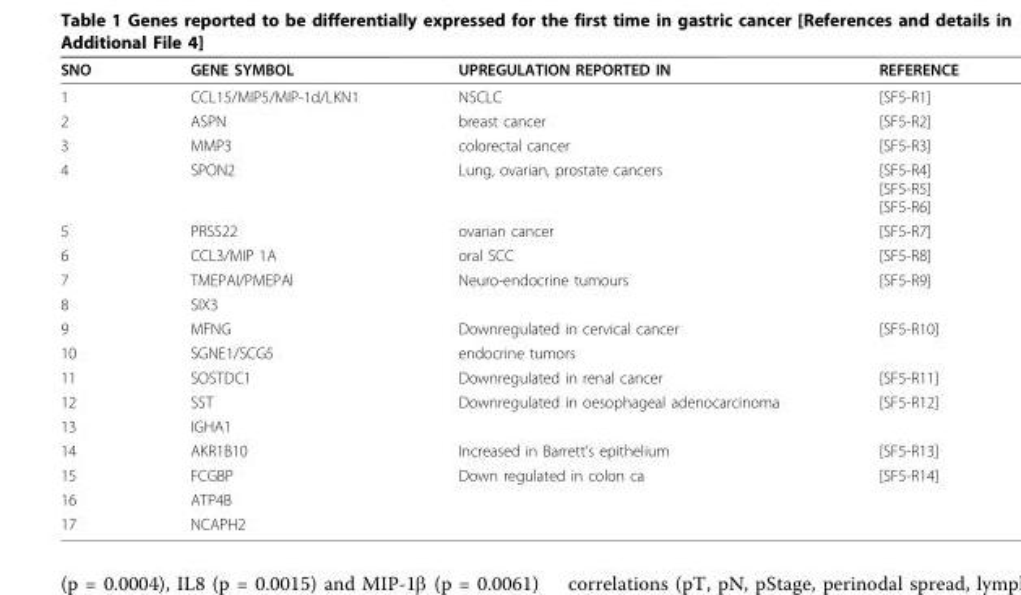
<table><thead><tr><td>SNO</td><td>GENE SYMBOL</td><td>UPREGULATION REPORTED IN</td><td>REFERENCE</td></tr></thead><tbody><tr><td>1</td><td>CCL15/MIP5/MIP-1d/LKN1</td><td>NSCLC</td><td>[SF5-R1]</td></tr><tr><td>2</td><td>ASPN</td><td>breast cancer</td><td>[SF5-R2]</td></tr><tr><td>3</td><td>MMP3</td><td>colorectal cancer</td><td>[SF5-R3]</td></tr><tr><td>4</td><td>SPON2</td><td>Lung, ovarian, prostate cancers</td><td>[SF5-R4] [SF5-R5] [SF5-R6]</td></tr><tr><td>5</td><td>PRSS22</td><td>ovarian cancer</td><td>[SF5-R7]</td></tr><tr><td>6</td><td>CCL3/MIP 1A</td><td>oral SCC</td><td>[SF5-R8]</td></tr><tr><td>7</td><td>TMEPAI/PMEPAI</td><td>Neuro-endocrine tumours</td><td>[SF5-R9]</td></tr><tr><td>8</td><td>SIX3</td><td></td><td></td></tr><tr><td>9</td><td>MFNG</td><td>Downregulated in cervical cancer</td><td>[SF5-R10]</td></tr><tr><td>10</td><td>SGNE1/SCG5</td><td>endocrine tumors</td><td></td></tr><tr><td>11</td><td>SOSTDC1</td><td>Downregulated in renal cancer</td><td>[SF5-R11]</td></tr><tr><td>12</td><td>SST</td><td>Downregulated in oesophageal adenocarcinoma</td><td>[SF5-R12]</td></tr><tr><td>13</td><td>IGHA1</td><td></td><td></td></tr><tr><td>14</td><td>AKR1B10</td><td>Increased in Barrett’s epithelium</td><td>[SF5-R13]</td></tr><tr><td>15</td><td>FCGBP</td><td>Down regulated in colon ca</td><td>[SF5-R14]</td></tr><tr><td>16</td><td>ATP4B</td><td></td><td></td></tr><tr><td>17</td><td>NCAPH2</td><td></td><td></td></tr></tbody></table>